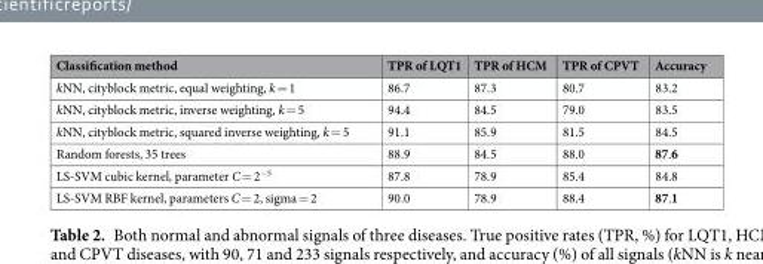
<table><thead><tr><td>Classification method</td><td>TPR of LQT1</td><td>TPR of HCM</td><td>TPR of CPVT</td><td>Accuracy</td></tr></thead><tbody><tr><td>kNN, cityblock metric, equal weighting, k = 1</td><td>86.7</td><td>87.3</td><td>80.7</td><td>83.2</td></tr><tr><td>kNN, cityblock metric, inverse weighting, k = 5</td><td>94.4</td><td>84.5</td><td>79.0</td><td>83.5</td></tr><tr><td>kNN, cityblock metric, squared inverse weighting, k = 5</td><td>91.1</td><td>85.9</td><td>81.5</td><td>84.5</td></tr><tr><td>Random forests, 35 trees</td><td>88.9</td><td>84.5</td><td>88.0</td><td>87.6</td></tr><tr><td>LS-SVM cubic kernel, parameter C = 2<sup>−5</sup></td><td>87.8</td><td>78.9</td><td>85.4</td><td>84.8</td></tr><tr><td>LS-SVM RBF kernel, parameters C = 2, sigma = 2</td><td>90.0</td><td>78.9</td><td>88.4</td><td>87.1</td></tr></tbody></table>